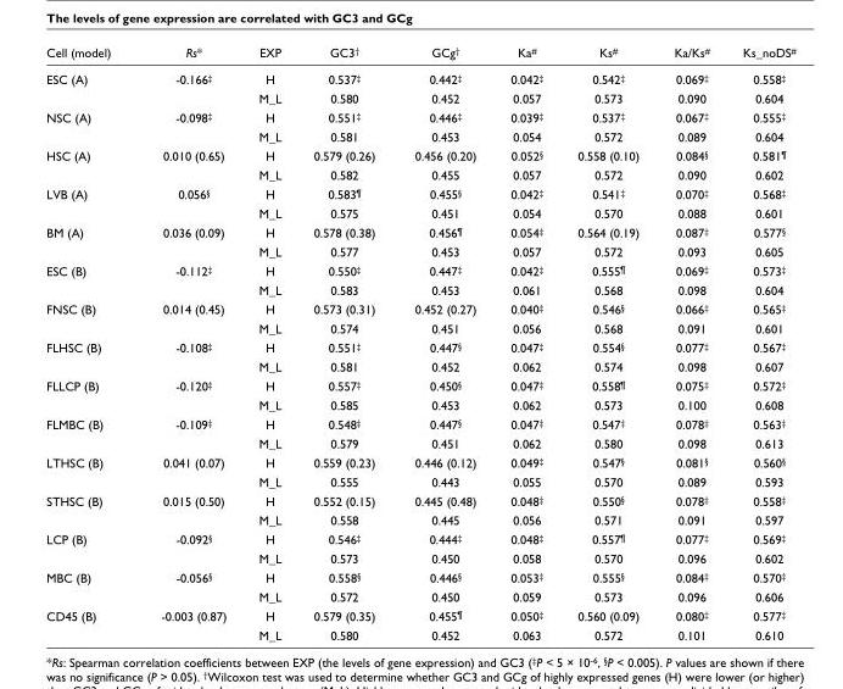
<table><thead><tr><td>Cell (model)</td><td>Rs*</td><td>EXP</td><td>GC3<sup>†</sup></td><td>GCg<sup>†</sup></td><td>Ka<sup>#</sup></td><td>Ks<sup>#</sup></td><td>Ka/Ks<sup>#</sup></td><td>Ks_noDS<sup>#</sup></td></tr></thead><tbody><tr><td rowspan="2">ESC (A)</td><td>-0.166<sup>‡</sup></td><td>H</td><td>0.537<sup>‡</sup></td><td>0.442<sup>‡</sup></td><td>0.042<sup>‡</sup></td><td>0.542<sup>‡</sup></td><td>0.069<sup>‡</sup></td><td>0.558<sup>‡</sup></td></tr><tr><td></td><td>M_L</td><td>0.580</td><td>0.452</td><td>0.057</td><td>0.573</td><td>0.090</td><td>0.604</td></tr><tr><td rowspan="2">NSC (A)</td><td>-0.098<sup>‡</sup></td><td>H</td><td>0.551<sup>‡</sup></td><td>0.446<sup>‡</sup></td><td>0.039<sup>‡</sup></td><td>0.537<sup>‡</sup></td><td>0.067<sup>‡</sup></td><td>0.555<sup>‡</sup></td></tr><tr><td></td><td>M_L</td><td>0.581</td><td>0.453</td><td>0.054</td><td>0.572</td><td>0.089</td><td>0.604</td></tr><tr><td rowspan="2">HSC (A)</td><td>0.010 (0.65)</td><td>H</td><td>0.579 (0.26)</td><td>0.456 (0.20)</td><td>0.052<sup>§</sup></td><td>0.558 (0.10)</td><td>0.084<sup>§</sup></td><td>0.581<sup>¶</sup></td></tr><tr><td></td><td>M_L</td><td>0.582</td><td>0.455</td><td>0.057</td><td>0.572</td><td>0.090</td><td>0.602</td></tr><tr><td rowspan="2">LVB (A)</td><td>0.056<sup>§</sup></td><td>H</td><td>0.583<sup>¶</sup></td><td>0.455<sup>§</sup></td><td>0.042<sup>‡</sup></td><td>0.541<sup>‡</sup></td><td>0.070<sup>‡</sup></td><td>0.568<sup>‡</sup></td></tr><tr><td></td><td>M_L</td><td>0.575</td><td>0.451</td><td>0.054</td><td>0.570</td><td>0.088</td><td>0.601</td></tr><tr><td rowspan="2">BM (A)</td><td>0.036 (0.09)</td><td>H</td><td>0.578 (0.38)</td><td>0.456<sup>¶</sup></td><td>0.054<sup>‡</sup></td><td>0.564 (0.19)</td><td>0.087<sup>‡</sup></td><td>0.577<sup>§</sup></td></tr><tr><td></td><td>M_L</td><td>0.577</td><td>0.453</td><td>0.057</td><td>0.572</td><td>0.093</td><td>0.605</td></tr><tr><td rowspan="2">ESC (B)</td><td>-0.112<sup>‡</sup></td><td>H</td><td>0.550<sup>‡</sup></td><td>0.447<sup>‡</sup></td><td>0.042<sup>‡</sup></td><td>0.555<sup>¶</sup></td><td>0.069<sup>‡</sup></td><td>0.573<sup>‡</sup></td></tr><tr><td></td><td>M_L</td><td>0.583</td><td>0.453</td><td>0.061</td><td>0.568</td><td>0.098</td><td>0.604</td></tr><tr><td rowspan="2">FNSC (B)</td><td>0.014 (0.45)</td><td>H</td><td>0.573 (0.31)</td><td>0.452 (0.27)</td><td>0.040<sup>‡</sup></td><td>0.546<sup>§</sup></td><td>0.066<sup>‡</sup></td><td>0.565<sup>‡</sup></td></tr><tr><td></td><td>M_L</td><td>0.574</td><td>0.451</td><td>0.056</td><td>0.568</td><td>0.091</td><td>0.601</td></tr><tr><td rowspan="2">FLHSC (B)</td><td>-0.108<sup>‡</sup></td><td>H</td><td>0.551<sup>‡</sup></td><td>0.447<sup>§</sup></td><td>0.047<sup>‡</sup></td><td>0.554<sup>§</sup></td><td>0.077<sup>‡</sup></td><td>0.567<sup>‡</sup></td></tr><tr><td></td><td>M_L</td><td>0.581</td><td>0.452</td><td>0.062</td><td>0.574</td><td>0.098</td><td>0.607</td></tr><tr><td rowspan="2">FLLCP (B)</td><td>-0.120<sup>‡</sup></td><td>H</td><td>0.557<sup>‡</sup></td><td>0.450<sup>§</sup></td><td>0.047<sup>‡</sup></td><td>0.558<sup>¶</sup></td><td>0.075<sup>‡</sup></td><td>0.572<sup>‡</sup></td></tr><tr><td></td><td>M_L</td><td>0.585</td><td>0.453</td><td>0.062</td><td>0.573</td><td>0.100</td><td>0.608</td></tr><tr><td rowspan="2">FLMBC (B)</td><td>-0.109<sup>‡</sup></td><td>H</td><td>0.548<sup>‡</sup></td><td>0.447<sup>§</sup></td><td>0.047<sup>‡</sup></td><td>0.547<sup>‡</sup></td><td>0.078<sup>‡</sup></td><td>0.563<sup>‡</sup></td></tr><tr><td></td><td>M_L</td><td>0.579</td><td>0.451</td><td>0.062</td><td>0.580</td><td>0.098</td><td>0.613</td></tr><tr><td rowspan="2">LTHSC (B)</td><td>0.041 (0.07)</td><td>H</td><td>0.559 (0.23)</td><td>0.446 (0.12)</td><td>0.049<sup>‡</sup></td><td>0.547<sup>§</sup></td><td>0.081<sup>§</sup></td><td>0.560<sup>§</sup></td></tr><tr><td></td><td>M_L</td><td>0.555</td><td>0.443</td><td>0.055</td><td>0.570</td><td>0.089</td><td>0.593</td></tr><tr><td rowspan="2">STHSC (B)</td><td>0.015 (0.50)</td><td>H</td><td>0.552 (0.15)</td><td>0.445 (0.48)</td><td>0.048<sup>‡</sup></td><td>0.550<sup>§</sup></td><td>0.078<sup>‡</sup></td><td>0.558<sup>‡</sup></td></tr><tr><td></td><td>M_L</td><td>0.558</td><td>0.445</td><td>0.056</td><td>0.571</td><td>0.091</td><td>0.597</td></tr><tr><td rowspan="2">LCP (B)</td><td>-0.092<sup>§</sup></td><td>H</td><td>0.546<sup>‡</sup></td><td>0.444<sup>‡</sup></td><td>0.048<sup>‡</sup></td><td>0.557<sup>¶</sup></td><td>0.077<sup>‡</sup></td><td>0.569<sup>‡</sup></td></tr><tr><td></td><td>M_L</td><td>0.573</td><td>0.450</td><td>0.058</td><td>0.570</td><td>0.096</td><td>0.602</td></tr><tr><td rowspan="2">MBC (B)</td><td>-0.056<sup>§</sup></td><td>H</td><td>0.558<sup>§</sup></td><td>0.446<sup>§</sup></td><td>0.053<sup>‡</sup></td><td>0.555<sup>§</sup></td><td>0.084<sup>‡</sup></td><td>0.570<sup>‡</sup></td></tr><tr><td></td><td>M_L</td><td>0.572</td><td>0.450</td><td>0.059</td><td>0.573</td><td>0.096</td><td>0.606</td></tr><tr><td rowspan="2">CD45 (B)</td><td>-0.003 (0.87)</td><td>H</td><td>0.579 (0.35)</td><td>0.455<sup>¶</sup></td><td>0.050<sup>‡</sup></td><td>0.560 (0.09)</td><td>0.080<sup>‡</sup></td><td>0.577<sup>‡</sup></td></tr><tr><td></td><td>M_L</td><td>0.580</td><td>0.452</td><td>0.063</td><td>0.572</td><td>0.101</td><td>0.610</td></tr></tbody></table>